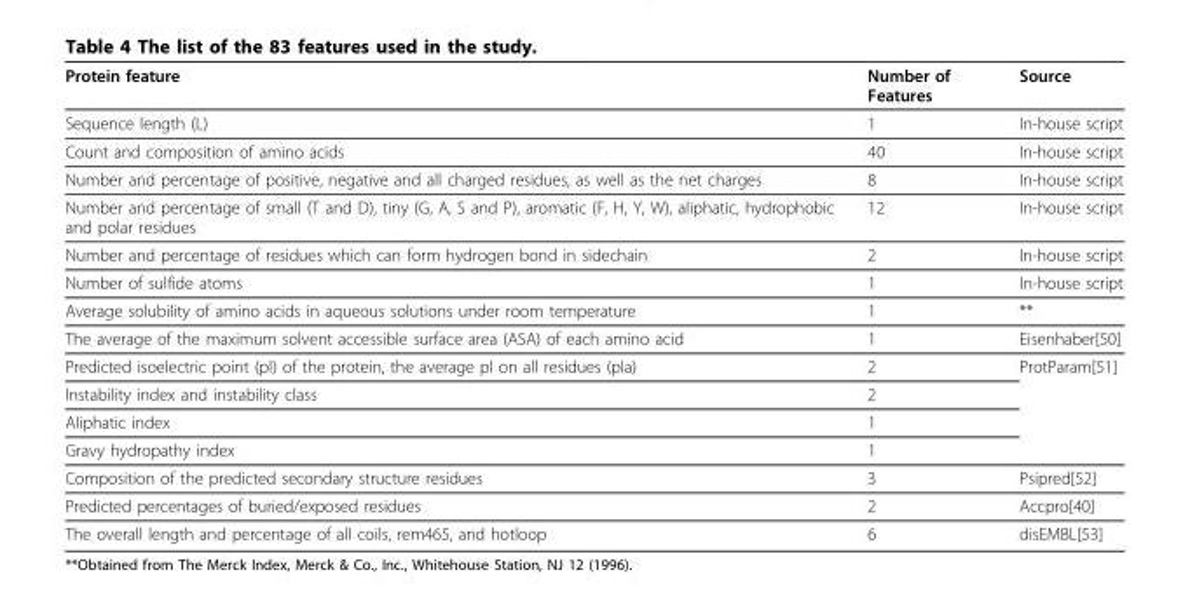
<table><thead><tr><td>Protein feature</td><td>Number of Features</td><td>Source</td></tr></thead><tbody><tr><td>Sequence length (L)</td><td>1</td><td>In-house script</td></tr><tr><td>Count and composition of amino acids</td><td>40</td><td>In-house script</td></tr><tr><td>Number and percentage of positive, negative and all charged residues, as well as the net charges</td><td>8</td><td>In-house script</td></tr><tr><td>Number and percentage of small (T and D), tiny (G, A, S and P), aromatic (F, H, Y, W), aliphatic, hydrophobic and polar residues</td><td>12</td><td>In-house script</td></tr><tr><td>Number and percentage of residues which can form hydrogen bond in sidechain</td><td>2</td><td>In-house script</td></tr><tr><td>Number of sulfide atoms</td><td>1</td><td>In-house script</td></tr><tr><td>Average solubility of amino acids in aqueous solutions under room temperature</td><td>1</td><td>**</td></tr><tr><td>The average of the maximum solvent accessible surface area (ASA) of each amino acid</td><td>1</td><td>Eisenhaber[50]</td></tr><tr><td>Predicted isoelectric point (pI) of the protein, the average pI on all residues (pIa)</td><td>2</td><td>ProtParam[51]</td></tr><tr><td>Instability index and instability class</td><td>2</td><td></td></tr><tr><td>Aliphatic index</td><td>1</td><td></td></tr><tr><td>Gravy hydropathy index</td><td>1</td><td></td></tr><tr><td>Composition of the predicted secondary structure residues</td><td>3</td><td>Psipred[52]</td></tr><tr><td>Predicted percentages of buried/exposed residues</td><td>2</td><td>Accpro[40]</td></tr><tr><td>The overall length and percentage of all coils, rem465, and hotloop</td><td>6</td><td>disEMBL[53]</td></tr></tbody></table>